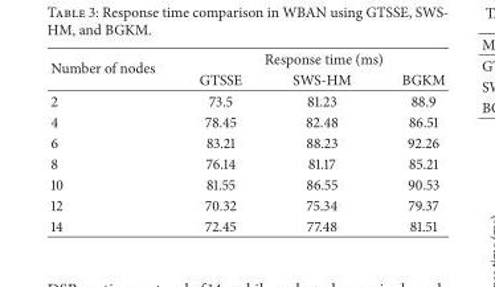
<table><thead><tr><td rowspan="2">Number of nodes</td><td colspan="3">Response time (ms)</td></tr><tr><td>GTSSE</td><td>SWS-HM</td><td>BGKM</td></tr></thead><tbody><tr><td>2</td><td>73.5</td><td>81.23</td><td>88.9</td></tr><tr><td>4</td><td>78.45</td><td>82.48</td><td>86.51</td></tr><tr><td>6</td><td>83.21</td><td>88.23</td><td>92.26</td></tr><tr><td>8</td><td>76.14</td><td>81.17</td><td>85.21</td></tr><tr><td>10</td><td>81.55</td><td>86.55</td><td>90.53</td></tr><tr><td>12</td><td>70.32</td><td>75.34</td><td>79.37</td></tr><tr><td>14</td><td>72.45</td><td>77.48</td><td>81.51</td></tr></tbody></table>